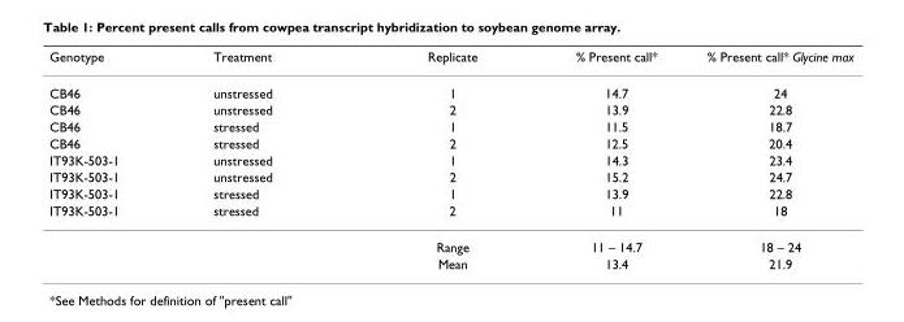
<table><thead><tr><td>Genotype</td><td>Treatment</td><td>Replicate</td><td>% Present call*</td><td>% Present call* Glycine max</td></tr></thead><tbody><tr><td>CB46</td><td>unstressed</td><td>1</td><td>14.7</td><td>24</td></tr><tr><td>CB46</td><td>unstressed</td><td>2</td><td>13.9</td><td>22.8</td></tr><tr><td>CB46</td><td>stressed</td><td>1</td><td>11.5</td><td>18.7</td></tr><tr><td>CB46</td><td>stressed</td><td>2</td><td>12.5</td><td>20.4</td></tr><tr><td>IT93K-503-1</td><td>unstressed</td><td>1</td><td>14.3</td><td>23.4</td></tr><tr><td>IT93K-503-1</td><td>unstressed</td><td>2</td><td>15.2</td><td>24.7</td></tr><tr><td>IT93K-503-1</td><td>stressed</td><td>1</td><td>13.9</td><td>22.8</td></tr><tr><td rowspan="3">IT93K-503-1</td><td>stressed</td><td>2</td><td>11</td><td>18</td></tr><tr><td></td><td>Range</td><td>11 – 14.7</td><td>18 – 24</td></tr><tr><td></td><td>Mean</td><td>13.4</td><td>21.9</td></tr></tbody></table>